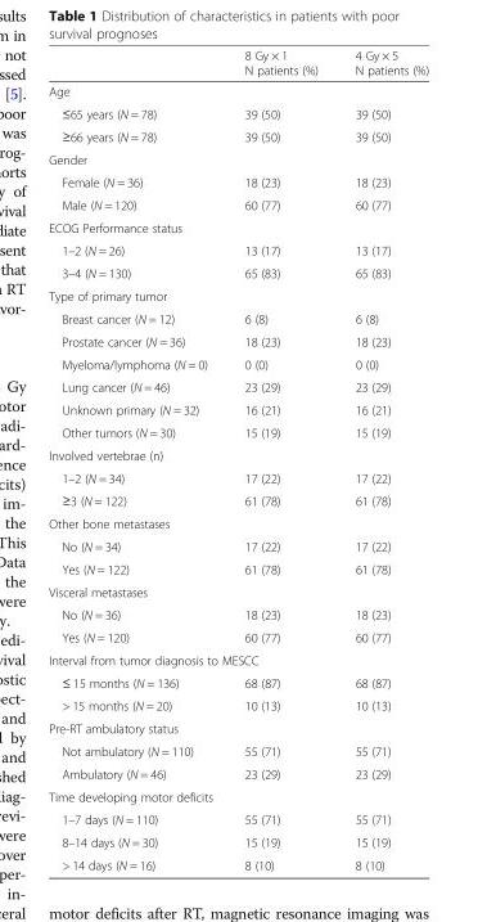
<table><thead><tr><td></td><td>8 Gy × 1 N patients (%)</td><td>4 Gy × 5 N patients (%)</td></tr></thead><tbody><tr><td colspan="3">Age</td></tr><tr><td>≤65 years (N = 78)</td><td>39 (50)</td><td>39 (50)</td></tr><tr><td>≥66 years (N = 78)</td><td>39 (50)</td><td>39 (50)</td></tr><tr><td colspan="3">Gender</td></tr><tr><td>Female (N = 36)</td><td>18 (23)</td><td>18 (23)</td></tr><tr><td>Male (N = 120)</td><td>60 (77)</td><td>60 (77)</td></tr><tr><td colspan="3">ECOG Performance status</td></tr><tr><td>1–2 (N = 26)</td><td>13 (17)</td><td>13 (17)</td></tr><tr><td>3–4 (N = 130)</td><td>65 (83)</td><td>65 (83)</td></tr><tr><td colspan="3">Type of primary tumor</td></tr><tr><td>Breast cancer (N = 12)</td><td>6 (8)</td><td>6 (8)</td></tr><tr><td>Prostate cancer (N = 36)</td><td>18 (23)</td><td>18 (23)</td></tr><tr><td>Myeloma/lymphoma (N = 0)</td><td>0 (0)</td><td>0 (0)</td></tr><tr><td>Lung cancer (N = 46)</td><td>23 (29)</td><td>23 (29)</td></tr><tr><td>Unknown primary (N = 32)</td><td>16 (21)</td><td>16 (21)</td></tr><tr><td>Other tumors (N = 30)</td><td>15 (19)</td><td>15 (19)</td></tr><tr><td colspan="3">Involved vertebrae (n)</td></tr><tr><td>1–2 (N = 34)</td><td>17 (22)</td><td>17 (22)</td></tr><tr><td>≥3 (N = 122)</td><td>61 (78)</td><td>61 (78)</td></tr><tr><td colspan="3">Other bone metastases</td></tr><tr><td>No (N = 34)</td><td>17 (22)</td><td>17 (22)</td></tr><tr><td>Yes (N = 122)</td><td>61 (78)</td><td>61 (78)</td></tr><tr><td colspan="3">Visceral metastases</td></tr><tr><td>No (N = 36)</td><td>18 (23)</td><td>18 (23)</td></tr><tr><td>Yes (N = 120)</td><td>60 (77)</td><td>60 (77)</td></tr><tr><td colspan="3">Interval from tumor diagnosis to MESCC</td></tr><tr><td>≤ 15 months (N = 136)</td><td>68 (87)</td><td>68 (87)</td></tr><tr><td>&gt; 15 months (N = 20)</td><td>10 (13)</td><td>10 (13)</td></tr><tr><td colspan="3">Pre-RT ambulatory status</td></tr><tr><td>Not ambulatory (N = 110)</td><td>55 (71)</td><td>55 (71)</td></tr><tr><td>Ambulatory (N = 46)</td><td>23 (29)</td><td>23 (29)</td></tr><tr><td colspan="3">Time developing motor deficits</td></tr><tr><td>1–7 days (N = 110)</td><td>55 (71)</td><td>55 (71)</td></tr><tr><td>8–14 days (N = 30)</td><td>15 (19)</td><td>15 (19)</td></tr><tr><td>&gt; 14 days (N = 16)</td><td>8 (10)</td><td>8 (10)</td></tr></tbody></table>